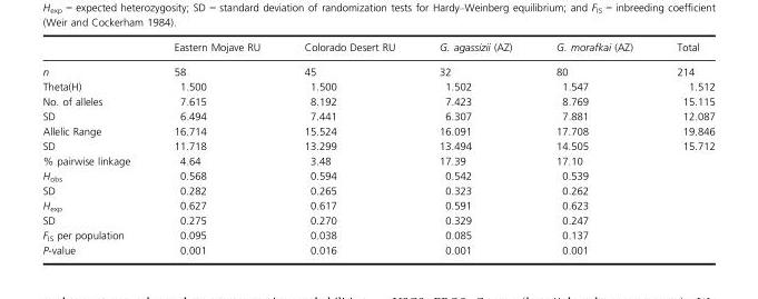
<table><thead><tr><td></td><td>Eastern Mojave RU</td><td>Colorado Desert RU</td><td>G. agassizii (AZ)</td><td>G. morafkai (AZ)</td><td>Total</td></tr></thead><tbody><tr><td>n</td><td>58</td><td>45</td><td>32</td><td>80</td><td>214</td></tr><tr><td>Theta(H)</td><td>1.500</td><td>1.500</td><td>1.502</td><td>1.547</td><td>1.512</td></tr><tr><td>No. of alleles</td><td>7.615</td><td>8.192</td><td>7.423</td><td>8.769</td><td>15.115</td></tr><tr><td>SD</td><td>6.494</td><td>7.441</td><td>6.307</td><td>7.881</td><td>12.087</td></tr><tr><td>Allelic Range</td><td>16.714</td><td>15.524</td><td>16.091</td><td>17.708</td><td>19.846</td></tr><tr><td>SD</td><td>11.718</td><td>13.299</td><td>13.494</td><td>14.505</td><td>15.712</td></tr><tr><td>% pairwise linkage</td><td>4.64</td><td>3.48</td><td>17.39</td><td>17.10</td><td></td></tr><tr><td>H<sub>obs</sub></td><td>0.568</td><td>0.594</td><td>0.542</td><td>0.539</td><td></td></tr><tr><td>SD</td><td>0.282</td><td>0.265</td><td>0.323</td><td>0.262</td><td></td></tr><tr><td>H<sub>exp</sub></td><td>0.627</td><td>0.617</td><td>0.591</td><td>0.623</td><td></td></tr><tr><td>SD</td><td>0.275</td><td>0.270</td><td>0.329</td><td>0.247</td><td></td></tr><tr><td>F<sub>IS</sub> per population</td><td>0.095</td><td>0.038</td><td>0.085</td><td>0.137</td><td></td></tr><tr><td>P-value</td><td>0.001</td><td>0.016</td><td>0.001</td><td>0.001</td><td></td></tr></tbody></table>